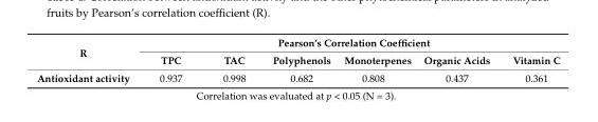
<table><thead><tr><td rowspan="2">R</td><td colspan="6">Pearson’s Correlation Coefficient</td></tr><tr><td>TPC</td><td>TAC</td><td>Polyphenols</td><td>Monoterpenes</td><td>Organic Acids</td><td>Vitamin C</td></tr></thead><tbody><tr><td>Antioxidant activity</td><td>0.937</td><td>0.998</td><td>0.682</td><td>0.808</td><td>0.437</td><td>0.361</td></tr></tbody></table>